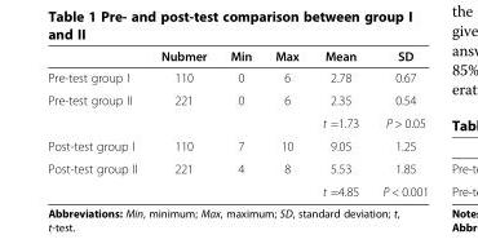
<table><thead><tr><td></td><td>Nubmer</td><td>Min</td><td>Max</td><td>Mean</td><td>SD</td></tr></thead><tbody><tr><td>Pre-test group I</td><td>110</td><td>0</td><td>6</td><td>2.78</td><td>0.67</td></tr><tr><td rowspan="2">Pre-test group II</td><td>221</td><td>0</td><td>6</td><td>2.35</td><td>0.54</td></tr><tr><td></td><td></td><td></td><td>t =1.73</td><td>P &gt; 0.05</td></tr><tr><td>Post-test group I</td><td>110</td><td>7</td><td>10</td><td>9.05</td><td>1.25</td></tr><tr><td rowspan="2">Post-test group II</td><td>221</td><td>4</td><td>8</td><td>5.53</td><td>1.85</td></tr><tr><td></td><td></td><td></td><td>t =4.85</td><td>P &lt; 0.001</td></tr></tbody></table>